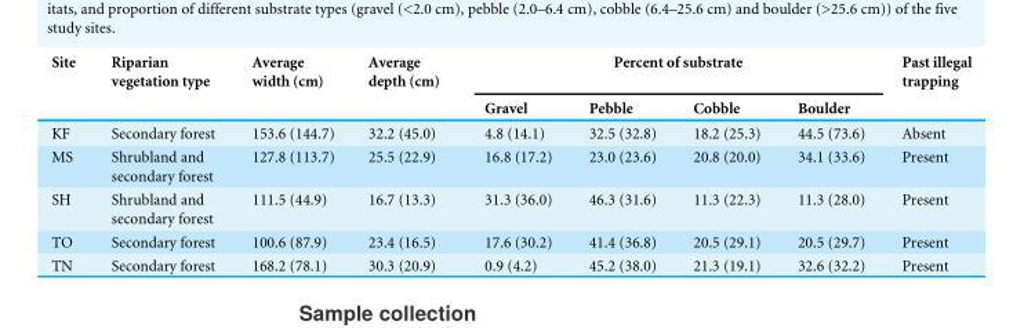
<table><thead><tr><td rowspan="2">Site</td><td rowspan="2">Riparian vegetation type</td><td rowspan="2">Average width (cm)</td><td rowspan="2">Average depth (cm)</td><td colspan="4">Percent of substrate</td><td rowspan="2">Past illegal trapping</td></tr><tr><td>Gravel</td><td>Pebble</td><td>Cobble</td><td>Boulder</td></tr></thead><tbody><tr><td>KF</td><td>Secondary forest</td><td>153.6 (144.7)</td><td>32.2 (45.0)</td><td>4.8 (14.1)</td><td>32.5 (32.8)</td><td>18.2 (25.3)</td><td>44.5 (73.6)</td><td>Absent</td></tr><tr><td>MS</td><td>Shrubland and secondary forest</td><td>127.8 (113.7)</td><td>25.5 (22.9)</td><td>16.8 (17.2)</td><td>23.0 (23.6)</td><td>20.8 (20.0)</td><td>34.1 (33.6)</td><td>Present</td></tr><tr><td>SH</td><td>Shrubland and secondary forest</td><td>111.5 (44.9)</td><td>16.7 (13.3)</td><td>31.3 (36.0)</td><td>46.3 (31.6)</td><td>11.3 (22.3)</td><td>11.3 (28.0)</td><td>Present</td></tr><tr><td>TO</td><td>Secondary forest</td><td>100.6 (87.9)</td><td>23.4 (16.5)</td><td>17.6 (30.2)</td><td>41.4 (36.8)</td><td>20.5 (29.1)</td><td>20.5 (29.7)</td><td>Present</td></tr><tr><td>TN</td><td>Secondary forest</td><td>168.2 (78.1)</td><td>30.3 (20.9)</td><td>0.9 (4.2)</td><td>45.2 (38.0)</td><td>21.3 (19.1)</td><td>32.6 (32.2)</td><td>Present</td></tr></tbody></table>